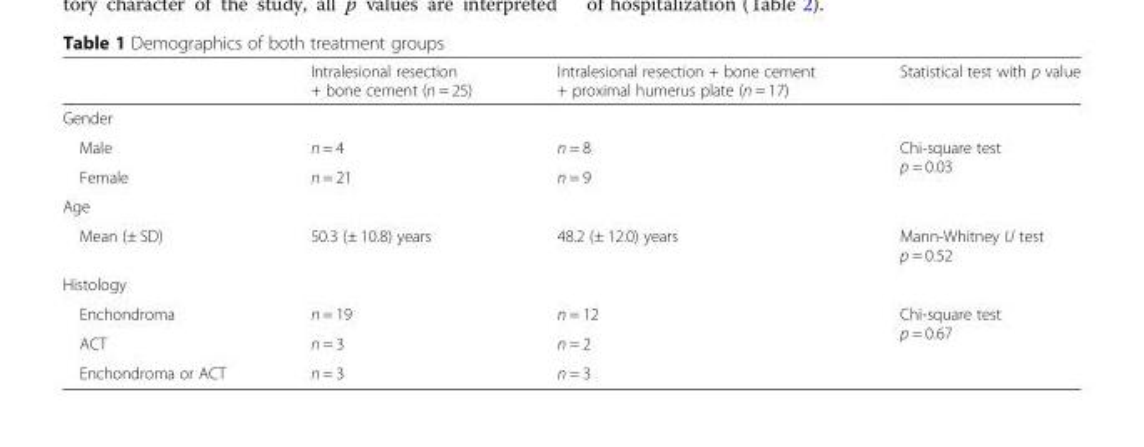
<table><thead><tr><td></td><td>Intralesional resection + bone cement (n = 25)</td><td>Intralesional resection + bone cement + proximal humerus plate (n = 17)</td><td>Statistical test with p value</td></tr></thead><tbody><tr><td colspan="4">Gender</td></tr><tr><td>Male</td><td>n = 4</td><td>n = 8</td><td rowspan="2">Chi-square test p = 0.03</td></tr><tr><td>Female</td><td>n = 21</td><td>n = 9</td></tr><tr><td colspan="4">Age</td></tr><tr><td>Mean (± SD)</td><td>50.3 (± 10.8) years</td><td>48.2 (± 12.0) years</td><td>Mann-Whitney U test p = 0.52</td></tr><tr><td colspan="4">Histology</td></tr><tr><td>Enchondroma</td><td>n = 19</td><td>n = 12</td><td rowspan="3">Chi-square test p = 0.67</td></tr><tr><td>ACT</td><td>n = 3</td><td>n = 2</td></tr><tr><td>Enchondroma or ACT</td><td>n = 3</td><td>n = 3</td></tr></tbody></table>